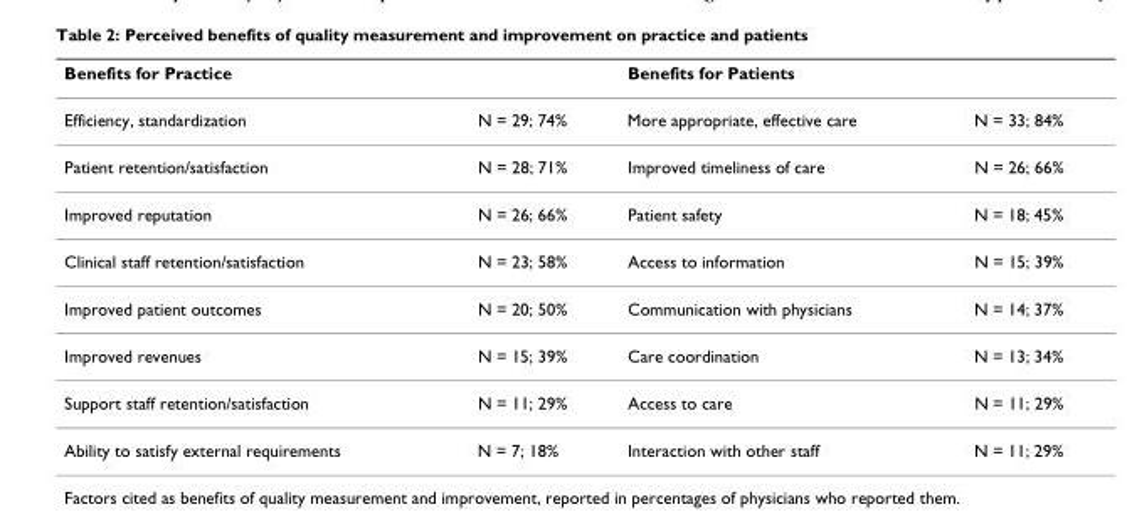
<table><thead><tr><td>Benefits for Practice</td><td></td><td>Benefits for Patients</td><td></td></tr></thead><tbody><tr><td>Efficiency, standardization</td><td>N = 29; 74%</td><td>More appropriate, effective care</td><td>N = 33; 84%</td></tr><tr><td>Patient retention/satisfaction</td><td>N = 28; 71%</td><td>Improved timeliness of care</td><td>N = 26; 66%</td></tr><tr><td>Improved reputation</td><td>N = 26; 66%</td><td>Patient safety</td><td>N = 18; 45%</td></tr><tr><td>Clinical staff retention/satisfaction</td><td>N = 23; 58%</td><td>Access to information</td><td>N = 15; 39%</td></tr><tr><td>Improved patient outcomes</td><td>N = 20; 50%</td><td>Communication with physicians</td><td>N = 14; 37%</td></tr><tr><td>Improved revenues</td><td>N = 15; 39%</td><td>Care coordination</td><td>N = 13; 34%</td></tr><tr><td>Support staff retention/satisfaction</td><td>N = 11; 29%</td><td>Access to care</td><td>N = 11; 29%</td></tr><tr><td>Ability to satisfy external requirements</td><td>N = 7; 18%</td><td>Interaction with other staff</td><td>N = 11; 29%</td></tr></tbody></table>